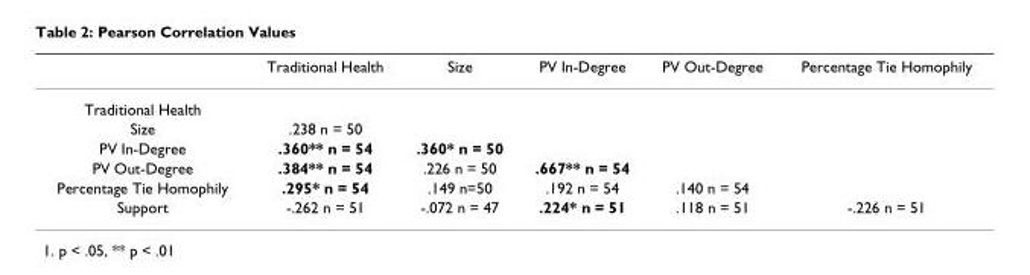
<table><thead><tr><td></td><td>Traditional Health</td><td>Size</td><td>PV In-Degree</td><td>PV Out-Degree</td><td>Percentage Tie Homophily</td></tr></thead><tbody><tr><td colspan="6">Traditional Health</td></tr><tr><td>Size</td><td>.238 n = 50</td><td></td><td></td><td></td><td></td></tr><tr><td>PV In-Degree</td><td>.360** n = 54</td><td>.360* n = 50</td><td></td><td></td><td></td></tr><tr><td>PV Out-Degree</td><td>.384** n = 54</td><td>.226 n = 50</td><td>.667** n = 54</td><td></td><td></td></tr><tr><td>Percentage Tie Homophily</td><td>.295* n = 54</td><td>.149 n=50</td><td>.192 n = 54</td><td>.140 n = 54</td><td></td></tr><tr><td>Support</td><td>-.262 n = 51</td><td>-.072 n = 47</td><td>.224* n = 51</td><td>.118 n = 51</td><td>-.226 n = 51</td></tr></tbody></table>